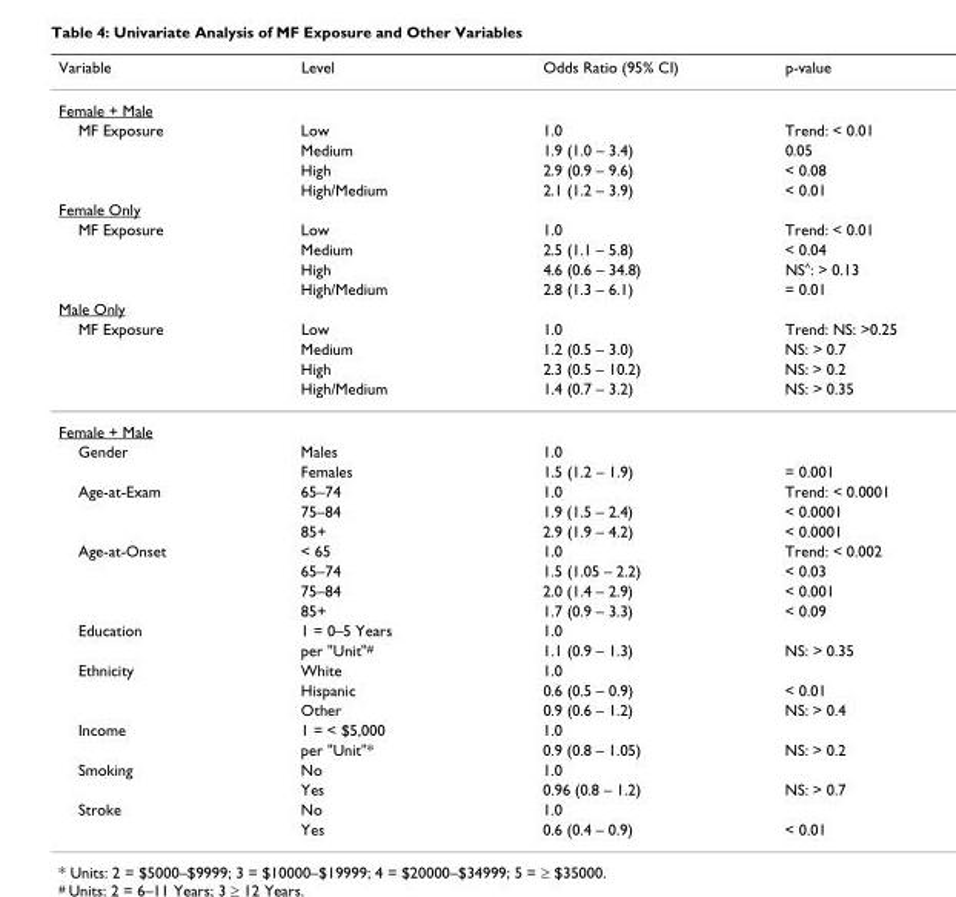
<table><thead><tr><td>Variable</td><td>Level</td><td>Odds Ratio (95% CI)</td><td>p-value</td></tr></thead><tbody><tr><td colspan="4">Female + Male</td></tr><tr><td rowspan="4">MF Exposure</td><td>Low</td><td>1.0</td><td>Trend: &lt; 0.01</td></tr><tr><td>Medium</td><td>1.9 (1.0 – 3.4)</td><td>0.05</td></tr><tr><td>High</td><td>2.9 (0.9 – 9.6)</td><td>&lt; 0.08</td></tr><tr><td>High/Medium</td><td>2.1 (1.2 – 3.9)</td><td>&lt; 0.01</td></tr><tr><td colspan="4">Female Only</td></tr><tr><td rowspan="4">MF Exposure</td><td>Low</td><td>1.0</td><td>Trend: &lt; 0.01</td></tr><tr><td>Medium</td><td>2.5 (1.1 – 5.8)</td><td>&lt; 0.04</td></tr><tr><td>High</td><td>4.6 (0.6 – 34.8)</td><td>NS<sup>^</sup>: &gt; 0.13</td></tr><tr><td>High/Medium</td><td>2.8 (1.3 – 6.1)</td><td>= 0.01</td></tr><tr><td colspan="4">Male Only</td></tr><tr><td rowspan="4">MF Exposure</td><td>Low</td><td>1.0</td><td>Trend: NS: &gt;0.25</td></tr><tr><td>Medium</td><td>1.2 (0.5 – 3.0)</td><td>NS: &gt; 0.7</td></tr><tr><td>High</td><td>2.3 (0.5 – 10.2)</td><td>NS: &gt; 0.2</td></tr><tr><td>High/Medium</td><td>1.4 (0.7 – 3.2)</td><td>NS: &gt; 0.35</td></tr><tr><td colspan="4">Female + Male</td></tr><tr><td rowspan="2">Gender</td><td>Males</td><td>1.0</td><td></td></tr><tr><td>Females</td><td>1.5 (1.2 – 1.9)</td><td>= 0.001</td></tr><tr><td rowspan="3">Age-at-Exam</td><td>65–74</td><td>1.0</td><td>Trend: &lt; 0.0001</td></tr><tr><td>75–84</td><td>1.9 (1.5 – 2.4)</td><td>&lt; 0.0001</td></tr><tr><td>85+</td><td>2.9 (1.9 – 4.2)</td><td>&lt; 0.0001</td></tr><tr><td rowspan="4">Age-at-Onset</td><td>&lt; 65</td><td>1.0</td><td>Trend: &lt; 0.002</td></tr><tr><td>65–74</td><td>1.5 (1.05 – 2.2)</td><td>&lt; 0.03</td></tr><tr><td>75–84</td><td>2.0 (1.4 – 2.9)</td><td>&lt; 0.001</td></tr><tr><td>85+</td><td>1.7 (0.9 – 3.3)</td><td>&lt; 0.09</td></tr><tr><td rowspan="2">Education</td><td>1 = 0–5 Years</td><td>1.0</td><td></td></tr><tr><td>per &quot;Unit&quot;<sup>#</sup></td><td>1.1 (0.9 – 1.3)</td><td>NS: &gt; 0.35</td></tr><tr><td rowspan="3">Ethnicity</td><td>White</td><td>1.0</td><td></td></tr><tr><td>Hispanic</td><td>0.6 (0.5 – 0.9)</td><td>&lt; 0.01</td></tr><tr><td>Other</td><td>0.9 (0.6 – 1.2)</td><td>NS: &gt; 0.4</td></tr><tr><td rowspan="2">Income</td><td>1 = &lt; $5,000</td><td>1.0</td><td></td></tr><tr><td>per &quot;Unit&quot;*</td><td>0.9 (0.8 – 1.05)</td><td>NS: &gt; 0.2</td></tr><tr><td rowspan="2">Smoking</td><td>No</td><td>1.0</td><td></td></tr><tr><td>Yes</td><td>0.96 (0.8 – 1.2)</td><td>NS: &gt; 0.7</td></tr><tr><td rowspan="2">Stroke</td><td>No</td><td>1.0</td><td></td></tr><tr><td>Yes</td><td>0.6 (0.4 – 0.9)</td><td>&lt; 0.01</td></tr></tbody></table>